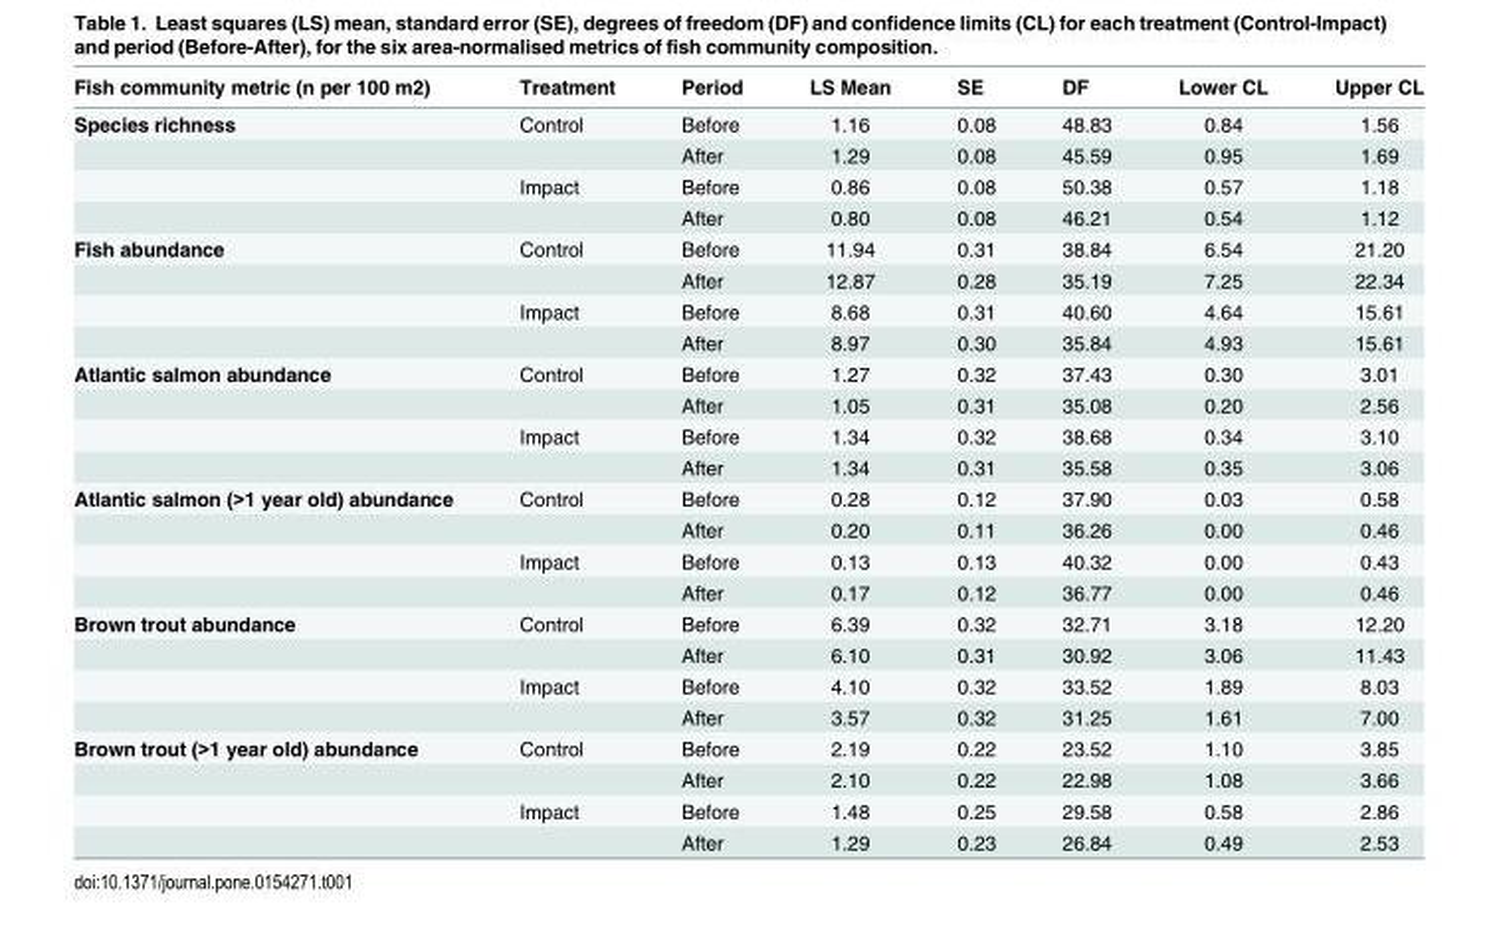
<table><thead><tr><td>Fish community metric (n per 100 m2)</td><td>Treatment</td><td>Period</td><td>LS Mean</td><td>SE</td><td>DF</td><td>Lower CL</td><td>Upper CL</td></tr></thead><tbody><tr><td rowspan="4">Species richness</td><td>Control</td><td>Before</td><td>1.16</td><td>0.08</td><td>48.83</td><td>0.84</td><td>1.56</td></tr><tr><td></td><td>After</td><td>1.29</td><td>0.08</td><td>45.59</td><td>0.95</td><td>1.69</td></tr><tr><td>Impact</td><td>Before</td><td>0.86</td><td>0.08</td><td>50.38</td><td>0.57</td><td>1.18</td></tr><tr><td></td><td>After</td><td>0.80</td><td>0.08</td><td>46.21</td><td>0.54</td><td>1.12</td></tr><tr><td rowspan="4">Fish abundance</td><td>Control</td><td>Before</td><td>11.94</td><td>0.31</td><td>38.84</td><td>6.54</td><td>21.20</td></tr><tr><td></td><td>After</td><td>12.87</td><td>0.28</td><td>35.19</td><td>7.25</td><td>22.34</td></tr><tr><td>Impact</td><td>Before</td><td>8.68</td><td>0.31</td><td>40.60</td><td>4.64</td><td>15.61</td></tr><tr><td></td><td>After</td><td>8.97</td><td>0.30</td><td>35.84</td><td>4.93</td><td>15.61</td></tr><tr><td rowspan="4">Atlantic salmon abundance</td><td>Control</td><td>Before</td><td>1.27</td><td>0.32</td><td>37.43</td><td>0.30</td><td>3.01</td></tr><tr><td></td><td>After</td><td>1.05</td><td>0.31</td><td>35.08</td><td>0.20</td><td>2.56</td></tr><tr><td>Impact</td><td>Before</td><td>1.34</td><td>0.32</td><td>38.68</td><td>0.34</td><td>3.10</td></tr><tr><td></td><td>After</td><td>1.34</td><td>0.31</td><td>35.58</td><td>0.35</td><td>3.06</td></tr><tr><td rowspan="4">Atlantic salmon (&gt;1 year old) abundance</td><td>Control</td><td>Before</td><td>0.28</td><td>0.12</td><td>37.90</td><td>0.03</td><td>0.58</td></tr><tr><td></td><td>After</td><td>0.20</td><td>0.11</td><td>36.26</td><td>0.00</td><td>0.46</td></tr><tr><td>Impact</td><td>Before</td><td>0.13</td><td>0.13</td><td>40.32</td><td>0.00</td><td>0.43</td></tr><tr><td></td><td>After</td><td>0.17</td><td>0.12</td><td>36.77</td><td>0.00</td><td>0.46</td></tr><tr><td rowspan="4">Brown trout abundance</td><td>Control</td><td>Before</td><td>6.39</td><td>0.32</td><td>32.71</td><td>3.18</td><td>12.20</td></tr><tr><td></td><td>After</td><td>6.10</td><td>0.31</td><td>30.92</td><td>3.06</td><td>11.43</td></tr><tr><td>Impact</td><td>Before</td><td>4.10</td><td>0.32</td><td>33.52</td><td>1.89</td><td>8.03</td></tr><tr><td></td><td>After</td><td>3.57</td><td>0.32</td><td>31.25</td><td>1.61</td><td>7.00</td></tr><tr><td rowspan="4">Brown trout (&gt;1 year old) abundance</td><td>Control</td><td>Before</td><td>2.19</td><td>0.22</td><td>23.52</td><td>1.10</td><td>3.85</td></tr><tr><td></td><td>After</td><td>2.10</td><td>0.22</td><td>22.98</td><td>1.08</td><td>3.66</td></tr><tr><td>Impact</td><td>Before</td><td>1.48</td><td>0.25</td><td>29.58</td><td>0.58</td><td>2.86</td></tr><tr><td></td><td>After</td><td>1.29</td><td>0.23</td><td>26.84</td><td>0.49</td><td>2.53</td></tr></tbody></table>